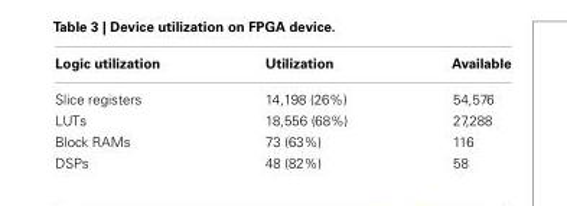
<table><thead><tr><td>Logic utilization</td><td>Utilization</td><td>Available</td></tr></thead><tbody><tr><td>Slice registers</td><td>14,198 (26%)</td><td>54,576</td></tr><tr><td>LUTs</td><td>18,556 (68%)</td><td>27,288</td></tr><tr><td>Block RAMs</td><td>73 (63%)</td><td>116</td></tr></tbody></table>